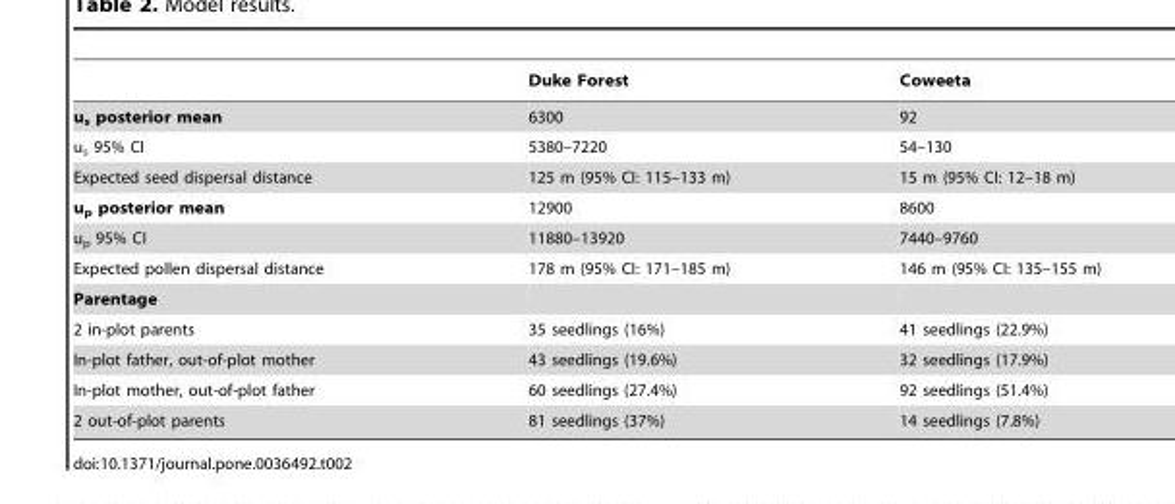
<table><thead><tr><td></td><td>Duke Forest</td><td>Coweeta</td></tr></thead><tbody><tr><td>u<sub>s</sub> posterior mean</td><td>6300</td><td>92</td></tr><tr><td>u<sub>s</sub> 95% CI</td><td>5380–7220</td><td>54–130</td></tr><tr><td>Expected seed dispersal distance</td><td>125 m (95% CI: 115–133 m)</td><td>15 m (95% CI: 12–18 m)</td></tr><tr><td>u<sub>p</sub> posterior mean</td><td>12900</td><td>8600</td></tr><tr><td>u<sub>p</sub> 95% CI</td><td>11880–13920</td><td>7440–9760</td></tr><tr><td>Expected pollen dispersal distance</td><td>178 m (95% CI: 171–185 m)</td><td>146 m (95% CI: 135–155 m)</td></tr><tr><td colspan="3">Parentage</td></tr><tr><td>2 in-plot parents</td><td>35 seedlings (16%)</td><td>41 seedlings (22.9%)</td></tr><tr><td>In-plot father, out-of-plot mother</td><td>43 seedlings (19.6%)</td><td>32 seedlings (17.9%)</td></tr><tr><td>In-plot mother, out-of-plot father</td><td>60 seedlings (27.4%)</td><td>92 seedlings (51.4%)</td></tr><tr><td>2 out-of-plot parents</td><td>81 seedlings (37%)</td><td>14 seedlings (7.8%)</td></tr></tbody></table>